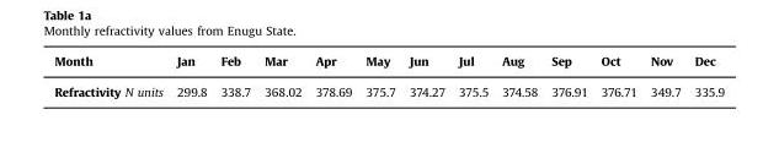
<table><thead><tr><td>Month</td><td>Jan</td><td>Feb</td><td>Mar</td><td>Apr</td><td>May</td><td>Jun</td><td>Jul</td><td>Aug</td><td>Sep</td><td>Oct</td><td>Nov</td><td>Dec</td></tr></thead><tbody><tr><td>Refractivity N units</td><td>299.8</td><td>338.7</td><td>368.02</td><td>378.69</td><td>375.7</td><td>374.27</td><td>375.5</td><td>374.58</td><td>376.91</td><td>376.71</td><td>349.7</td><td>335.9</td></tr></tbody></table>